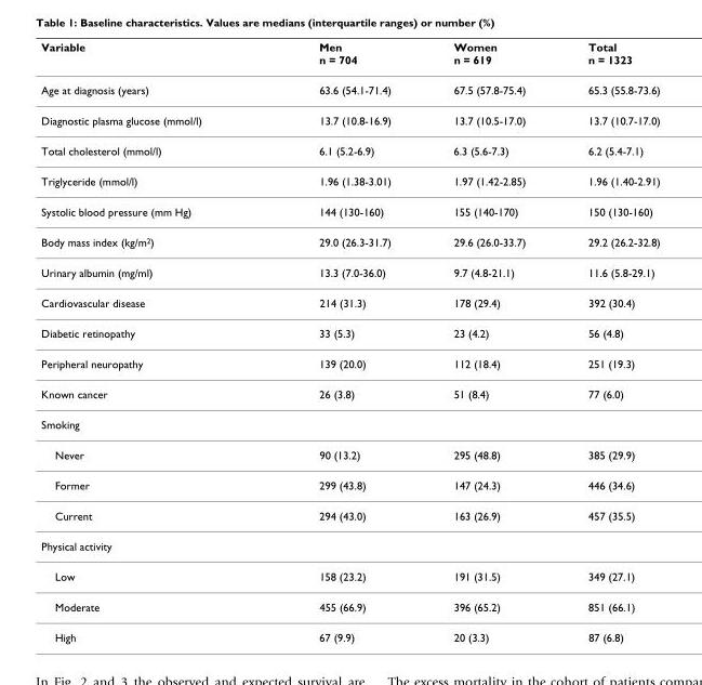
<table><thead><tr><td>Variable</td><td>Men n = 704</td><td>Women n = 619</td><td>Total n = 1323</td></tr></thead><tbody><tr><td>Age at diagnosis (years)</td><td>63.6 (54.1-71.4)</td><td>67.5 (57.8-75.4)</td><td>65.3 (55.8-73.6)</td></tr><tr><td>Diagnostic plasma glucose (mmol/l)</td><td>13.7 (10.8-16.9)</td><td>13.7 (10.5-17.0)</td><td>13.7 (10.7-17.0)</td></tr><tr><td>Total cholesterol (mmol/l)</td><td>6.1 (5.2-6.9)</td><td>6.3 (5.6-7.3)</td><td>6.2 (5.4-7.1)</td></tr><tr><td>Triglyceride (mmol/l)</td><td>1.96 (1.38-3.01)</td><td>1.97 (1.42-2.85)</td><td>1.96 (1.40-2.91)</td></tr><tr><td>Systolic blood pressure (mm Hg)</td><td>144 (130-160)</td><td>155 (140-170)</td><td>150 (130-160)</td></tr><tr><td>Body mass index (kg/m<sup>2</sup>)</td><td>29.0 (26.3-31.7)</td><td>29.6 (26.0-33.7)</td><td>29.2 (26.2-32.8)</td></tr><tr><td>Urinary albumin (mg/ml)</td><td>13.3 (7.0-36.0)</td><td>9.7 (4.8-21.1)</td><td>11.6 (5.8-29.1)</td></tr><tr><td>Cardiovascular disease</td><td>214 (31.3)</td><td>178 (29.4)</td><td>392 (30.4)</td></tr><tr><td>Diabetic retinopathy</td><td>33 (5.3)</td><td>23 (4.2)</td><td>56 (4.8)</td></tr><tr><td>Peripheral neuropathy</td><td>139 (20.0)</td><td>112 (18.4)</td><td>251 (19.3)</td></tr><tr><td>Known cancer</td><td>26 (3.8)</td><td>51 (8.4)</td><td>77 (6.0)</td></tr><tr><td colspan="4">Smoking</td></tr><tr><td>Never</td><td>90 (13.2)</td><td>295 (48.8)</td><td>385 (29.9)</td></tr><tr><td>Former</td><td>299 (43.8)</td><td>147 (24.3)</td><td>446 (34.6)</td></tr><tr><td>Current</td><td>294 (43.0)</td><td>163 (26.9)</td><td>457 (35.5)</td></tr><tr><td colspan="4">Physical activity</td></tr><tr><td>Low</td><td>158 (23.2)</td><td>191 (31.5)</td><td>349 (27.1)</td></tr><tr><td>Moderate</td><td>455 (66.9)</td><td>396 (65.2)</td><td>851 (66.1)</td></tr><tr><td>High</td><td>67 (9.9)</td><td>20 (3.3)</td><td>87 (6.8)</td></tr></tbody></table>